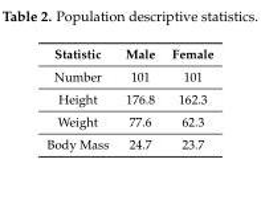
<table><thead><tr><td>Statistic</td><td>Male</td><td>Female</td></tr></thead><tbody><tr><td>Number</td><td>101</td><td>101</td></tr><tr><td>Height</td><td>176.8</td><td>162.3</td></tr><tr><td>Weight</td><td>77.6</td><td>62.3</td></tr><tr><td>Body Mass</td><td>24.7</td><td>23.7</td></tr></tbody></table>